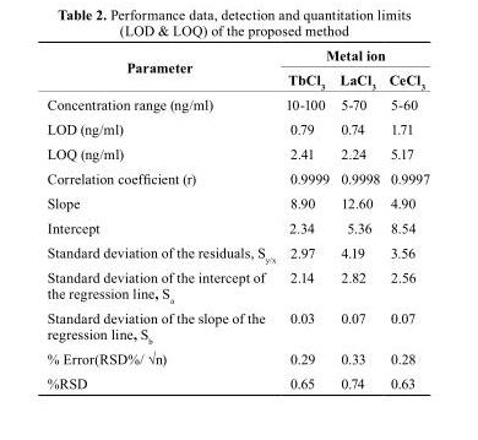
<table><thead><tr><td rowspan="2">parameter</td><td colspan="3">Metal ion</td></tr><tr><td>TbCl<sub>3</sub></td><td>LaCl<sub>3</sub></td><td>cecl<sub>3</sub></td></tr></thead><tbody><tr><td>Concentration range (ng/ml)</td><td>10-100</td><td>5-70</td><td>5-60</td></tr><tr><td>LOD (ng/ml)</td><td>0.79</td><td>0.74</td><td>1.71</td></tr><tr><td>LOQ (ng/ml)</td><td>2.41</td><td>2.24</td><td>5.17</td></tr><tr><td>Correlation coefficient (r)</td><td>0.9999</td><td>0.9998</td><td>0.9997</td></tr><tr><td>Slope</td><td>8.90</td><td>12.60</td><td>4.90</td></tr><tr><td>Intercept</td><td>2.34</td><td>5.36</td><td>8.54</td></tr><tr><td>Standard deviation of the residuals, S<sub>y/x</sub></td><td>2.97</td><td>4.19</td><td>3.56</td></tr><tr><td>Standard deviation of the intercept of the regression line, S<sub>a</sub></td><td>2.14</td><td>2.82</td><td>2.56</td></tr><tr><td>Standard deviation of the slope of the regression line, S<sub>b</sub></td><td>0.03</td><td>0.07</td><td>0.07</td></tr><tr><td>% Error(RSD%/ √n)</td><td>0.29</td><td>0.33</td><td>0.28</td></tr><tr><td>%RSD</td><td>0.65</td><td>0.74</td><td>0.63</td></tr></tbody></table>